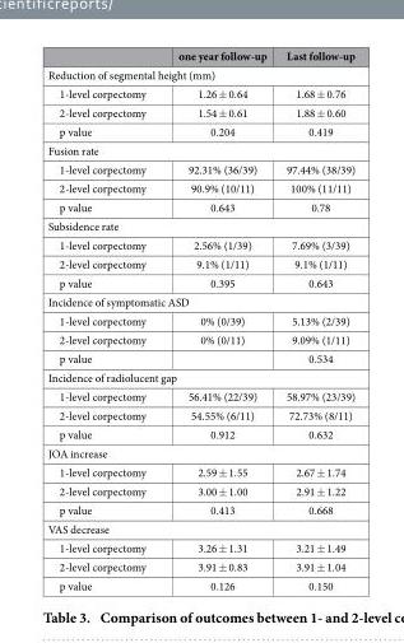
<table><thead><tr><td></td><td>one year follow-up</td><td>Last follow-up</td></tr></thead><tbody><tr><td colspan="3">Reduction of segmental height (mm)</td></tr><tr><td>1-level corpectomy</td><td>1.26 ± 0.64</td><td>1.68 ± 0.76</td></tr><tr><td>2-level corpectomy</td><td>1.54 ± 0.61</td><td>1.88 ± 0.60</td></tr><tr><td>p value</td><td>0.204</td><td>0.419</td></tr><tr><td colspan="3">Fusion rate</td></tr><tr><td>1-level corpectomy</td><td>92.31% (36/39)</td><td>97.44% (38/39)</td></tr><tr><td>2-level corpectomy</td><td>90.9% (10/11)</td><td>100% (11/11)</td></tr><tr><td>p value</td><td>0.643</td><td>0.78</td></tr><tr><td colspan="3">Subsidence rate</td></tr><tr><td>1-level corpectomy</td><td>2.56% (1/39)</td><td>7.69% (3/39)</td></tr><tr><td>2-level corpectomy</td><td>9.1% (1/11)</td><td>9.1% (1/11)</td></tr><tr><td>p value</td><td>0.395</td><td>0.643</td></tr><tr><td colspan="3">Incidence of symptomatic ASD</td></tr><tr><td>1-level corpectomy</td><td>0% (0/39)</td><td>5.13% (2/39)</td></tr><tr><td>2-level corpectomy</td><td>0% (0/11)</td><td>9.09% (1/11)</td></tr><tr><td>p value</td><td></td><td>0.534</td></tr><tr><td colspan="3">Incidence of radiolucent gap</td></tr><tr><td>1-level corpectomy</td><td>56.41% (22/39)</td><td>58.97% (23/39)</td></tr><tr><td>2-level corpectomy</td><td>54.55% (6/11)</td><td>72.73% (8/11)</td></tr><tr><td>p value</td><td>0.912</td><td>0.632</td></tr><tr><td colspan="3">JOA increase</td></tr><tr><td>1-level corpectomy</td><td>2.59 ± 1.55</td><td>2.67 ± 1.74</td></tr><tr><td>2-level corpectomy</td><td>3.00 ± 1.00</td><td>2.91 ± 1.22</td></tr><tr><td>p value</td><td>0.413</td><td>0.668</td></tr><tr><td colspan="3">VAS decrease</td></tr><tr><td>1-level corpectomy</td><td>3.26 ± 1.31</td><td>3.21 ± 1.49</td></tr><tr><td>2-level corpectomy</td><td>3.91 ± 0.83</td><td>3.91 ± 1.04</td></tr><tr><td>p value</td><td>0.126</td><td>0.150</td></tr></tbody></table>